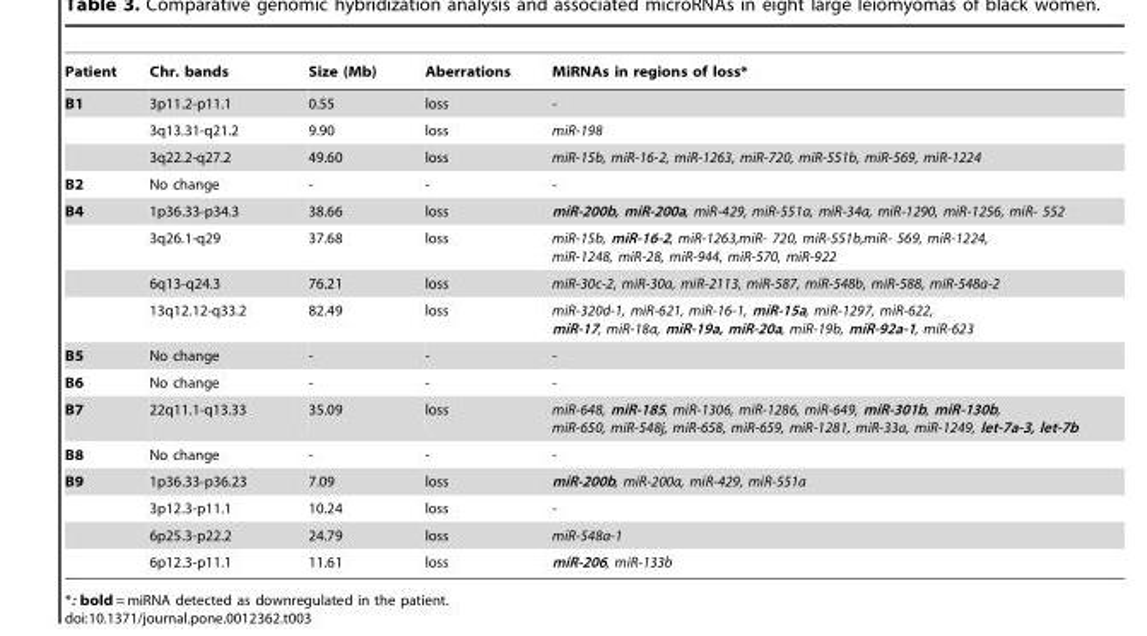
<table><thead><tr><td>Patient</td><td>Chr. bands</td><td>Size (Mb)</td><td>Aberrations</td><td>MiRNAs in regions of loss*</td></tr></thead><tbody><tr><td rowspan="3">B1</td><td>3p11.2-p11.1</td><td>0.55</td><td>loss</td><td>-</td></tr><tr><td>3q13.31-q21.2</td><td>9.90</td><td>loss</td><td>miR-198</td></tr><tr><td>3q22.2-q27.2</td><td>49.60</td><td>loss</td><td>miR-15b, miR-16-2, miR-1263, miR-720, miR-551b, miR-569, miR-1224</td></tr><tr><td>B2</td><td>No change</td><td>-</td><td>-</td><td>-</td></tr><tr><td rowspan="4">B4</td><td>1p36.33-p34.3</td><td>38.66</td><td>loss</td><td>miR-200b, miR-200a, miR-429, miR-551a, miR-34a, miR-1290, miR-1256, miR- 552</td></tr><tr><td>3q26.1-q29</td><td>37.68</td><td>loss</td><td>miR-15b, miR-16-2, miR-1263,miR- 720, miR-551b,miR- 569, miR-1224, miR-1248, miR-28, miR-944, miR-570, miR-922</td></tr><tr><td>6q13-q24.3</td><td>76.21</td><td>loss</td><td>miR-30c-2, miR-30a, miR-2113, miR-587, miR-548b, miR-588, miR-548a-2</td></tr><tr><td>13q12.12-q33.2</td><td>82.49</td><td>loss</td><td>miR-320d-1, miR-621, miR-16-1, miR-15a, miR-1297, miR-622, miR-17, miR-18a, miR-19a, miR-20a, miR-19b, miR-92a-1, miR-623</td></tr><tr><td>B5</td><td>No change</td><td>-</td><td>-</td><td>-</td></tr><tr><td>B6</td><td>No change</td><td>-</td><td>-</td><td>-</td></tr><tr><td>B7</td><td>22q11.1-q13.33</td><td>35.09</td><td>loss</td><td>miR-648, miR-185, miR-1306, miR-1286, miR-649, miR-301b, miR-130b, miR-650, miR-548j, miR-658, miR-659, miR-1281, miR-33a, miR-1249, let-7a-3, let-7b</td></tr><tr><td>B8</td><td>No change</td><td>-</td><td>-</td><td>-</td></tr><tr><td rowspan="4">B9</td><td>1p36.33-p36.23</td><td>7.09</td><td>loss</td><td>miR-200b, miR-200a, miR-429, miR-551a</td></tr><tr><td>3p12.3-p11.1</td><td>10.24</td><td>loss</td><td>-</td></tr><tr><td>6p25.3-p22.2</td><td>24.79</td><td>loss</td><td>miR-548a-1</td></tr><tr><td>6p12.3-p11.1</td><td>11.61</td><td>loss</td><td>miR-206, miR-133b</td></tr></tbody></table>